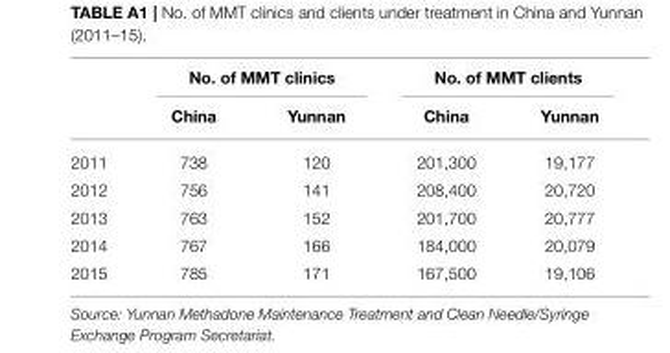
<table><thead><tr><td rowspan="2"></td><td colspan="2">No. of MMT clinics</td><td colspan="2">No. of MMT clients</td></tr><tr><td>China</td><td>Yunnan</td><td>China</td><td>Yunnan</td></tr></thead><tbody><tr><td>2011</td><td>738</td><td>120</td><td>201,300</td><td>19,177</td></tr><tr><td>2012</td><td>756</td><td>141</td><td>208,400</td><td>20,720</td></tr><tr><td>2013</td><td>763</td><td>152</td><td>201,700</td><td>20,777</td></tr><tr><td>2014</td><td>767</td><td>166</td><td>184,000</td><td>20,079</td></tr><tr><td>2015</td><td>785</td><td>171</td><td>167,500</td><td>19,106</td></tr></tbody></table>